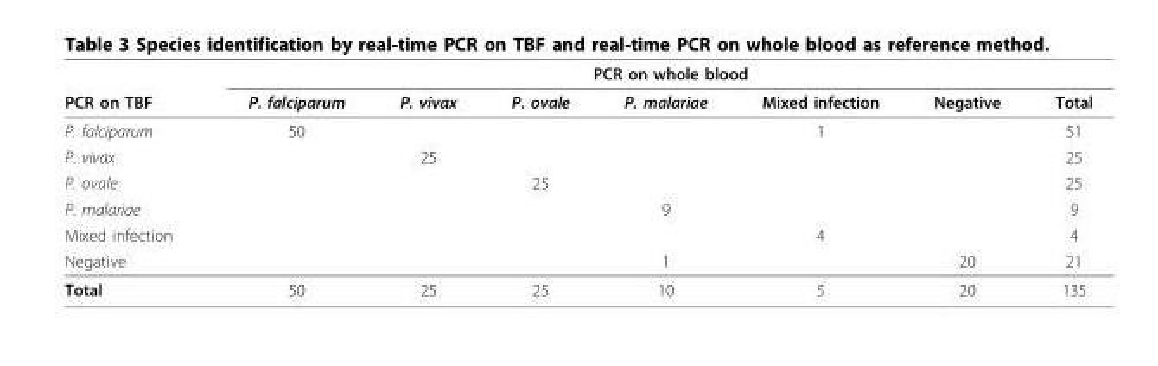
<table><thead><tr><td rowspan="2">PCR on TBF</td><td colspan="7">PCR on whole blood</td></tr><tr><td>P. falciparum</td><td>P. vivax</td><td>P. ovale</td><td>P. malariae</td><td>Mixed infection</td><td>Negative</td><td>Total</td></tr></thead><tbody><tr><td>P. falciparum</td><td>50</td><td></td><td></td><td></td><td>1</td><td></td><td>51</td></tr><tr><td>P. vivax</td><td></td><td>25</td><td></td><td></td><td></td><td></td><td>25</td></tr><tr><td>P. ovale</td><td></td><td></td><td>25</td><td></td><td></td><td></td><td>25</td></tr><tr><td>P. malariae</td><td></td><td></td><td></td><td>9</td><td></td><td></td><td>9</td></tr><tr><td>Mixed infection</td><td></td><td></td><td></td><td></td><td>4</td><td></td><td>4</td></tr><tr><td>Negative</td><td></td><td></td><td></td><td>1</td><td></td><td>20</td><td>21</td></tr><tr><td>Total</td><td>50</td><td>25</td><td>25</td><td>10</td><td>5</td><td>20</td><td>135</td></tr></tbody></table>